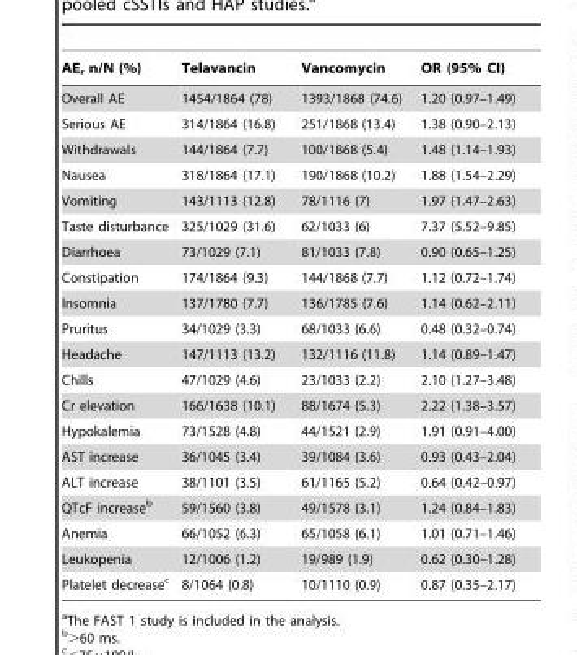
<table><thead><tr><td>AE, n/N (%)</td><td>Telavancin</td><td>Vancomycin</td><td>OR (95% CI)</td></tr></thead><tbody><tr><td>Overall AE</td><td>1454/1864 (78)</td><td>1393/1868 (74.6)</td><td>1.20 (0.97–1.49)</td></tr><tr><td>Serious AE</td><td>314/1864 (16.8)</td><td>251/1868 (13.4)</td><td>1.38 (0.90–2.13)</td></tr><tr><td>Withdrawals</td><td>144/1864 (7.7)</td><td>100/1868 (5.4)</td><td>1.48 (1.14–1.93)</td></tr><tr><td>Nausea</td><td>318/1864 (17.1)</td><td>190/1868 (10.2)</td><td>1.88 (1.54–2.29)</td></tr><tr><td>Vomiting</td><td>143/1113 (12.8)</td><td>78/1116 (7)</td><td>1.97 (1.47–2.63)</td></tr><tr><td>Taste disturbance</td><td>325/1029 (31.6)</td><td>62/1033 (6)</td><td>7.37 (5.52–9.85)</td></tr><tr><td>Diarrhoea</td><td>73/1029 (7.1)</td><td>81/1033 (7.8)</td><td>0.90 (0.65–1.25)</td></tr><tr><td>Constipation</td><td>174/1864 (9.3)</td><td>144/1868 (7.7)</td><td>1.12 (0.72–1.74)</td></tr><tr><td>Insomnia</td><td>137/1780 (7.7)</td><td>136/1785 (7.6)</td><td>1.14 (0.62–2.11)</td></tr><tr><td>Pruritus</td><td>34/1029 (3.3)</td><td>68/1033 (6.6)</td><td>0.48 (0.32–0.74)</td></tr><tr><td>Headache</td><td>147/1113 (13.2)</td><td>132/1116 (11.8)</td><td>1.14 (0.89–1.47)</td></tr><tr><td>Chills</td><td>47/1029 (4.6)</td><td>23/1033 (2.2)</td><td>2.10 (1.27–3.48)</td></tr><tr><td>Cr elevation</td><td>166/1638 (10.1)</td><td>88/1674 (5.3)</td><td>2.22 (1.38–3.57)</td></tr><tr><td>Hypokalemia</td><td>73/1528 (4.8)</td><td>44/1521 (2.9)</td><td>1.91 (0.91–4.00)</td></tr><tr><td>AST increase</td><td>36/1045 (3.4)</td><td>39/1084 (3.6)</td><td>0.93 (0.43–2.04)</td></tr><tr><td>ALT increase</td><td>38/1101 (3.5)</td><td>61/1165 (5.2)</td><td>0.64 (0.42–0.97)</td></tr><tr><td>QTcF increase<sup>b</sup></td><td>59/1560 (3.8)</td><td>49/1578 (3.1)</td><td>1.24 (0.84–1.83)</td></tr><tr><td>Anemia</td><td>66/1052 (6.3)</td><td>65/1058 (6.1)</td><td>1.01 (0.71–1.46)</td></tr><tr><td>Leukopenia</td><td>12/1006 (1.2)</td><td>19/989 (1.9)</td><td>0.62 (0.30–1.28)</td></tr><tr><td>Platelet decrease<sup>c</sup></td><td>8/1064 (0.8)</td><td>10/1110 (0.9)</td><td>0.87 (0.35–2.17)</td></tr></tbody></table>